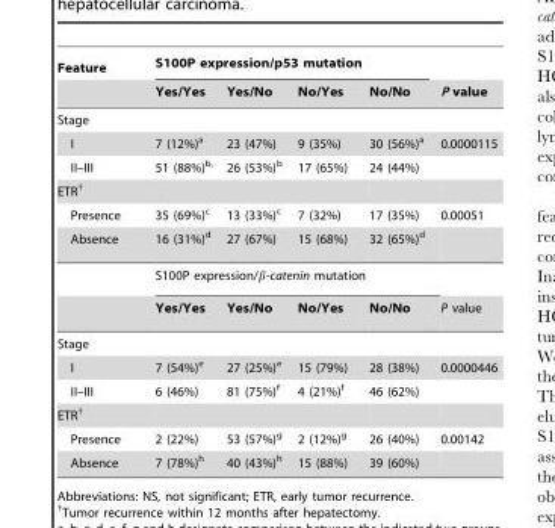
<table><thead><tr><td rowspan="2">Feature</td><td colspan="4">S100P expression/p53 mutation</td><td rowspan="2">P value</td></tr><tr><td>Yes/Yes</td><td>Yes/No</td><td>No/Yes</td><td>No/No</td></tr></thead><tbody><tr><td colspan="6">Stage</td></tr><tr><td>I</td><td>7 (12%)<sup>a</sup></td><td>23 (47%)</td><td>9 (35%)</td><td>30 (56%)<sup>a</sup></td><td>0.0000115</td></tr><tr><td>II–III</td><td>51 (88%)<sup>b,</sup></td><td>26 (53%)<sup>b</sup></td><td>17 (65%)</td><td>24 (44%)</td><td></td></tr><tr><td colspan="6">ETR†</td></tr><tr><td>Presence</td><td>35 (69%)<sup>c</sup></td><td>13 (33%)<sup>c</sup></td><td>7 (32%)</td><td>17 (35%)</td><td>0.00051</td></tr><tr><td rowspan="3">Absence</td><td>16 (31%)<sup>d</sup></td><td>27 (67%)</td><td>15 (68%)</td><td>32 (65%)<sup>d</sup></td><td></td></tr><tr><td colspan="4">S100P expression/β-catenin mutation</td><td></td></tr><tr><td>Yes/Yes</td><td>Yes/No</td><td>No/Yes</td><td>No/No</td><td>P value</td></tr><tr><td colspan="6">Stage</td></tr><tr><td>I</td><td>7 (54%)<sup>e</sup></td><td>27 (25%)<sup>e</sup></td><td>15 (79%)</td><td>28 (38%)</td><td>0.0000446</td></tr><tr><td>II–III</td><td>6 (46%)</td><td>81 (75%)<sup>f</sup></td><td>4 (21%)<sup>f</sup></td><td>46 (62%)</td><td></td></tr><tr><td colspan="6">ETR†</td></tr><tr><td>Presence</td><td>2 (22%)</td><td>53 (57%)<sup>g</sup></td><td>2 (12%)<sup>g</sup></td><td>26 (40%)</td><td>0.00142</td></tr><tr><td>Absence</td><td>7 (78%)<sup>h</sup></td><td>40 (43%)<sup>h</sup></td><td>15 (88%)</td><td>39 (60%)</td><td></td></tr></tbody></table>